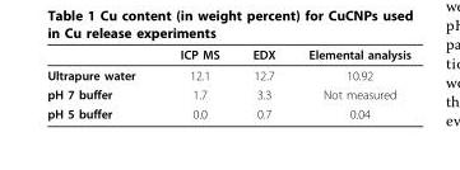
<table><thead><tr><td></td><td>ICP MS</td><td>EDX</td><td>Elemental analysis</td></tr></thead><tbody><tr><td>Ultrapure water</td><td>12.1</td><td>12.7</td><td>10.92</td></tr><tr><td>pH 7 buffer</td><td>1.7</td><td>3.3</td><td>Not measured</td></tr><tr><td>pH 5 buffer</td><td>0.0</td><td>0.7</td><td>0.04</td></tr></tbody></table>